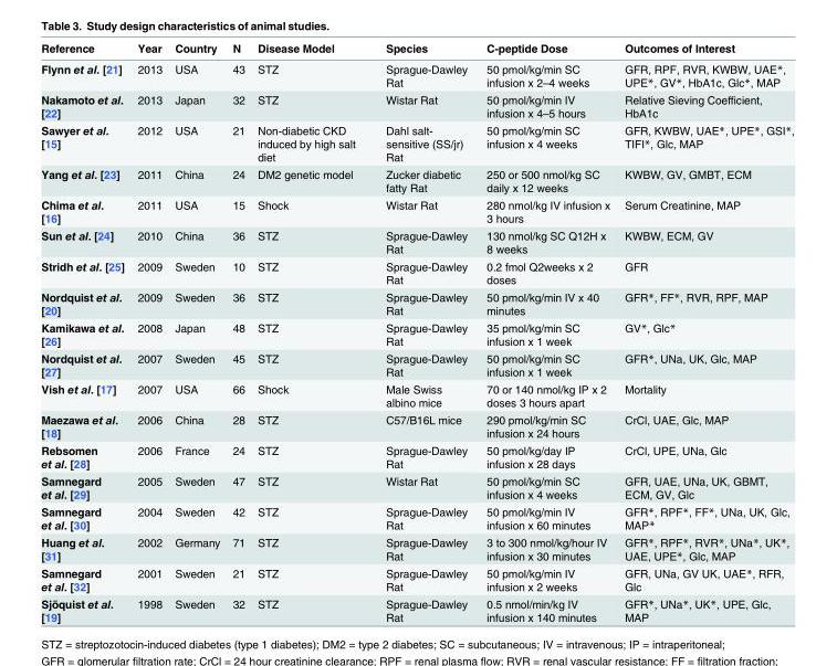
<table><thead><tr><td>Reference</td><td>Year</td><td>Country</td><td>N</td><td>Disease Model</td><td>Species</td><td>C-peptide Dose</td><td>Outcomes of Interest</td></tr></thead><tbody><tr><td>Flynn et al. [21]</td><td>2013</td><td>USA</td><td>43</td><td>STZ</td><td>Sprague-Dawley Rat</td><td>50 pmol/kg/min SC infusion x 2–4 weeks</td><td>GFR, RPF, RVR, KWBW, UAE*, UPE*, GV*, HbA1c, Glc*, MAP</td></tr><tr><td>Nakamoto et al. [22]</td><td>2013</td><td>Japan</td><td>32</td><td>STZ</td><td>Wistar Rat</td><td>50 pmol/kg/min IV infusion x 4–5 hours</td><td>Relative Sieving Coefficient, HbA1c</td></tr><tr><td>Sawyer et al. [15]</td><td>2012</td><td>USA</td><td>21</td><td>Non-diabetic CKD induced by high salt diet</td><td>Dahl salt- sensitive (SS/jr) Rat</td><td>50 pmol/kg/min SC infusion x 4 weeks</td><td>GFR, KWBW, UAE*, UPE*, GSI*, TIFI*, Glc, MAP</td></tr><tr><td>Yang et al. [23]</td><td>2011</td><td>China</td><td>24</td><td>DM2 genetic model</td><td>Zucker diabetic fatty Rat</td><td>250 or 500 nmol/kg SC daily x 12 weeks</td><td>KWBW, GV, GMBT, ECM</td></tr><tr><td>Chima et al. [16]</td><td>2011</td><td>USA</td><td>15</td><td>Shock</td><td>Wistar Rat</td><td>280 nmol/kg IV infusion x 3 hours</td><td>Serum Creatinine, MAP</td></tr><tr><td>Sun et al. [24]</td><td>2010</td><td>China</td><td>36</td><td>STZ</td><td>Sprague-Dawley Rat</td><td>130 nmol/kg SC Q12H x 8 weeks</td><td>KWBW, ECM, GV</td></tr><tr><td>Stridh et al. [25]</td><td>2009</td><td>Sweden</td><td>10</td><td>STZ</td><td>Sprague-Dawley Rat</td><td>0.2 fmol Q2weeks x 2 doses</td><td>GFR</td></tr><tr><td>Nordquist et al. [20]</td><td>2009</td><td>Sweden</td><td>36</td><td>STZ</td><td>Sprague-Dawley Rat</td><td>50 pmol/kg/min IV x 40 minutes</td><td>GFR*, FF*, RVR, RPF, MAP</td></tr><tr><td>Kamikawa et al. [26]</td><td>2008</td><td>Japan</td><td>48</td><td>STZ</td><td>Sprague-Dawley Rat</td><td>35 pmol/kg/min SC infusion x 1 week</td><td>GV*, Glc*</td></tr><tr><td>Nordquist et al. [27]</td><td>2007</td><td>Sweden</td><td>45</td><td>STZ</td><td>Sprague-Dawley Rat</td><td>50 pmol/kg/min SC infusion x 1 week</td><td>GFR*, UNa, UK, Glc, MAP</td></tr><tr><td>Vish et al. [17]</td><td>2007</td><td>USA</td><td>66</td><td>Shock</td><td>Male Swiss albino mice</td><td>70 or 140 nmol/kg IP x 2 doses 3 hours apart</td><td>Mortality</td></tr><tr><td>Maezawa et al. [18]</td><td>2006</td><td>China</td><td>28</td><td>STZ</td><td>C57/B16L mice</td><td>290 pmol/kg/min SC infusion x 24 hours</td><td>CrCl, UAE, Glc, MAP</td></tr><tr><td>Rebsomen et al. [28]</td><td>2006</td><td>France</td><td>24</td><td>STZ</td><td>Sprague-Dawley Rat</td><td>50 pmol/kg/day IP infusion x 28 days</td><td>CrCl, UPE, UNa, Glc</td></tr><tr><td>Samnegard et al. [29]</td><td>2005</td><td>Sweden</td><td>47</td><td>STZ</td><td>Wistar Rat</td><td>50 pmol/kg/min SC infusion x 4 weeks</td><td>GFR, UAE, UNa, UK, GBMT, ECM, GV, Glc</td></tr><tr><td>Samnegard et al. [30]</td><td>2004</td><td>Sweden</td><td>42</td><td>STZ</td><td>Sprague-Dawley Rat</td><td>50 pmol/kg/min IV infusion x 60 minutes</td><td>GFR*, RPF*, FF*, UNa, UK, Glc, MAP*</td></tr><tr><td>Huang et al. [31]</td><td>2002</td><td>Germany</td><td>71</td><td>STZ</td><td>Sprague-Dawley Rat</td><td>3 to 300 nmol/kg/hour IV infusion x 30 minutes</td><td>GFR*, RPF*, RVR*, UNa*, UK*, UAE, UPE*, Glc, MAP</td></tr><tr><td>Samnegard et al. [32]</td><td>2001</td><td>Sweden</td><td>21</td><td>STZ</td><td>Sprague-Dawley Rat</td><td>50 pmol/kg/min IV infusion x 2 weeks</td><td>GFR, UNa, GV UK, UAE*, RFR, Glc</td></tr><tr><td>Sjöquist et al. [19]</td><td>1998</td><td>Sweden</td><td>32</td><td>STZ</td><td>Sprague-Dawley Rat</td><td>0.5 nmol/min/kg IV infusion x 140 minutes</td><td>GFR*, UNa*, UK*, UPE, Glc, MAP</td></tr></tbody></table>